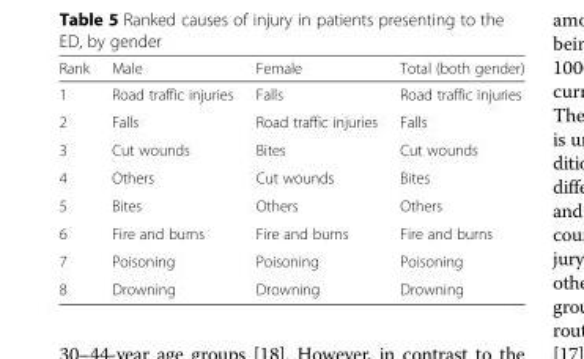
<table><thead><tr><td>Rank</td><td>Male</td><td>Female</td><td>Total (both gender)</td></tr></thead><tbody><tr><td>1</td><td>Road traffic injuries</td><td>Falls</td><td>Road traffic injuries</td></tr><tr><td>2</td><td>Falls</td><td>Road traffic injuries</td><td>Falls</td></tr><tr><td>3</td><td>Cut wounds</td><td>Bites</td><td>Cut wounds</td></tr><tr><td>4</td><td>Others</td><td>Cut wounds</td><td>Bites</td></tr><tr><td>5</td><td>Bites</td><td>Others</td><td>Others</td></tr><tr><td>6</td><td>Fire and burns</td><td>Fire and burns</td><td>Fire and burns</td></tr><tr><td>7</td><td>Poisoning</td><td>Poisoning</td><td>Poisoning</td></tr><tr><td>8</td><td>Drowning</td><td>Drowning</td><td>Drowning</td></tr></tbody></table>